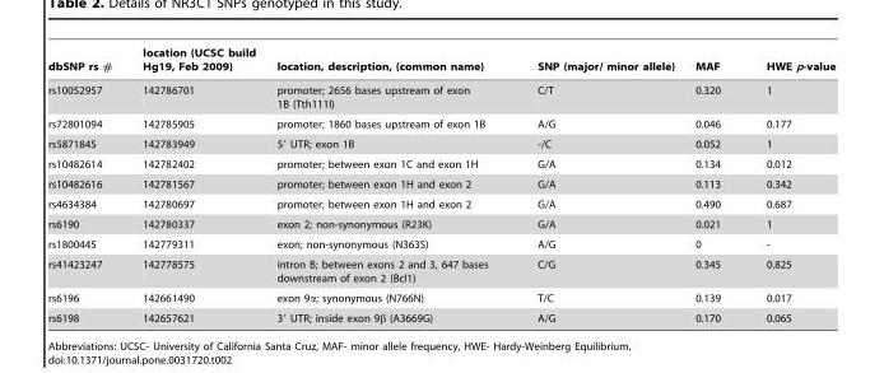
<table><thead><tr><td>dbSNP rs #</td><td>location (UCSC build Hg19, Feb 2009)</td><td>location, description, (common name)</td><td>SNP (major/ minor allele)</td><td>MAF</td><td>HWE p-value</td></tr></thead><tbody><tr><td>rs10052957</td><td>142786701</td><td>promoter; 2656 bases upstream of exon 1B (Tth111l)</td><td>C/T</td><td>0.320</td><td>1</td></tr><tr><td>rs72801094</td><td>142785905</td><td>promoter; 1860 bases upstream of exon 1B</td><td>A/G</td><td>0.046</td><td>0.177</td></tr><tr><td>rs5871845</td><td>142783949</td><td>5′ UTR; exon 1B</td><td>-/C</td><td>0.052</td><td>1</td></tr><tr><td>rs10482614</td><td>142782402</td><td>promoter; between exon 1C and exon 1H</td><td>G/A</td><td>0.134</td><td>0.012</td></tr><tr><td>rs10482616</td><td>142781567</td><td>promoter; between exon 1H and exon 2</td><td>G/A</td><td>0.113</td><td>0.342</td></tr><tr><td>rs4634384</td><td>142780697</td><td>promoter; between exon 1H and exon 2</td><td>G/A</td><td>0.490</td><td>0.687</td></tr><tr><td>rs6190</td><td>142780337</td><td>exon 2; non-synonymous (R23K)</td><td>G/A</td><td>0.021</td><td>1</td></tr><tr><td>rs1800445</td><td>142779311</td><td>exon; non-synonymous (N363S)</td><td>A/G</td><td>0</td><td>-</td></tr><tr><td>rs41423247</td><td>142778575</td><td>intron B; between exons 2 and 3, 647 bases downstream of exon 2 (Bcl1)</td><td>C/G</td><td>0.345</td><td>0.825</td></tr><tr><td>rs6196</td><td>142661490</td><td>exon 9α; synonymous (N766N)</td><td>T/C</td><td>0.139</td><td>0.017</td></tr><tr><td>rs6198</td><td>142657621</td><td>3′ UTR; inside exon 9β (A3669G)</td><td>A/G</td><td>0.170</td><td>0.065</td></tr></tbody></table>